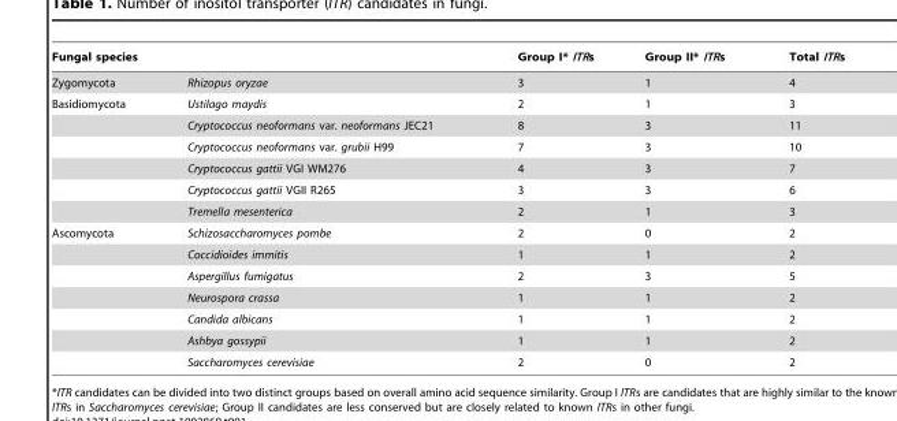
<table><thead><tr><td>Fungal species</td><td></td><td>Group I* ITRs</td><td>Group II* ITRs</td><td>Total ITRs</td></tr></thead><tbody><tr><td>Zygomycota</td><td>Rhizopus oryzae</td><td>3</td><td>1</td><td>4</td></tr><tr><td rowspan="6">Basidiomycota</td><td>Ustilago maydis</td><td>2</td><td>1</td><td>3</td></tr><tr><td>Cryptococcus neoformans var. neoformans JEC21</td><td>8</td><td>3</td><td>11</td></tr><tr><td>Cryptococcus neoformans var. grubii H99</td><td>7</td><td>3</td><td>10</td></tr><tr><td>Cryptococcus gattii VGI WM276</td><td>4</td><td>3</td><td>7</td></tr><tr><td>Cryptococcus gattii VGII R265</td><td>3</td><td>3</td><td>6</td></tr><tr><td>Tremella mesenterica</td><td>2</td><td>1</td><td>3</td></tr><tr><td rowspan="7">Ascomycota</td><td>Schizosaccharomyces pombe</td><td>2</td><td>0</td><td>2</td></tr><tr><td>Coccidioides immitis</td><td>1</td><td>1</td><td>2</td></tr><tr><td>Aspergillus fumigatus</td><td>2</td><td>3</td><td>5</td></tr><tr><td>Neurospora crassa</td><td>1</td><td>1</td><td>2</td></tr><tr><td>Candida albicans</td><td>1</td><td>1</td><td>2</td></tr><tr><td>Ashbya gossypii</td><td>1</td><td>1</td><td>2</td></tr><tr><td>Saccharomyces cerevisiae</td><td>2</td><td>0</td><td>2</td></tr></tbody></table>